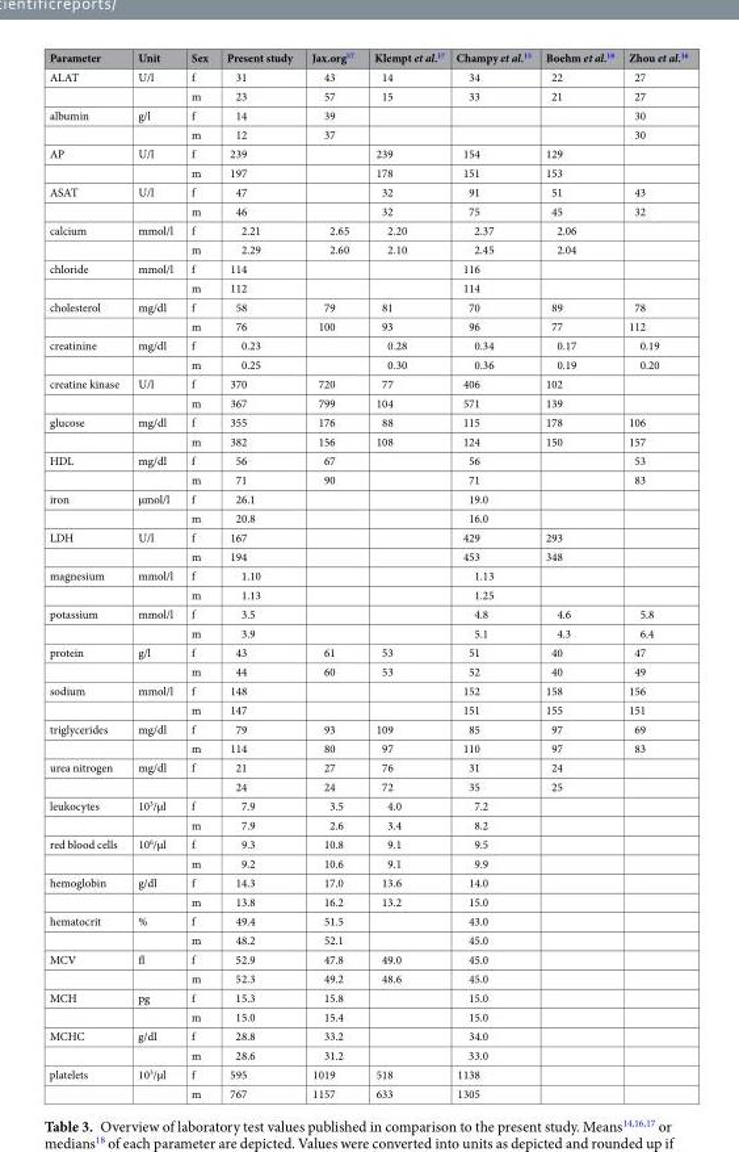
<table><thead><tr><td>Parameter</td><td>Unit</td><td>Sex</td><td>Present study</td><td>Jax.org<sup>57</sup></td><td>Klempt et al.<sup>17</sup></td><td>Champy et al.<sup>15</sup></td><td>Boehm et al.<sup>18</sup></td><td>Zhou et al.<sup>16</sup></td></tr></thead><tbody><tr><td rowspan="2">ALAT</td><td>U/l</td><td>f</td><td>31</td><td>43</td><td>14</td><td>34</td><td>22</td><td>27</td></tr><tr><td></td><td>m</td><td>23</td><td>57</td><td>15</td><td>33</td><td>21</td><td>27</td></tr><tr><td rowspan="2">albumin</td><td>g/l</td><td>f</td><td>14</td><td>39</td><td></td><td></td><td></td><td>30</td></tr><tr><td></td><td>m</td><td>12</td><td>37</td><td></td><td></td><td></td><td>30</td></tr><tr><td rowspan="2">AP</td><td>U/l</td><td>f</td><td>239</td><td></td><td>239</td><td>154</td><td>129</td><td></td></tr><tr><td></td><td>m</td><td>197</td><td></td><td>178</td><td>151</td><td>153</td><td></td></tr><tr><td rowspan="2">ASAT</td><td>U/l</td><td>f</td><td>47</td><td></td><td>32</td><td>91</td><td>51</td><td>43</td></tr><tr><td></td><td>m</td><td>46</td><td></td><td>32</td><td>75</td><td>45</td><td>32</td></tr><tr><td rowspan="2">calcium</td><td>mmol/l</td><td>f</td><td>2.21</td><td>2.65</td><td>2.20</td><td>2.37</td><td>2.06</td><td></td></tr><tr><td></td><td>m</td><td>2.29</td><td>2.60</td><td>2.10</td><td>2.45</td><td>2.04</td><td></td></tr><tr><td rowspan="2">chloride</td><td>mmol/l</td><td>f</td><td>114</td><td></td><td></td><td>116</td><td></td><td></td></tr><tr><td></td><td>m</td><td>112</td><td></td><td></td><td>114</td><td></td><td></td></tr><tr><td rowspan="2">cholesterol</td><td>mg/dl</td><td>f</td><td>58</td><td>79</td><td>81</td><td>70</td><td>89</td><td>78</td></tr><tr><td></td><td>m</td><td>76</td><td>100</td><td>93</td><td>96</td><td>77</td><td>112</td></tr><tr><td rowspan="2">creatinine</td><td>mg/dl</td><td>f</td><td>0.23</td><td></td><td>0.28</td><td>0.34</td><td>0.17</td><td>0.19</td></tr><tr><td></td><td>m</td><td>0.25</td><td></td><td>0.30</td><td>0.36</td><td>0.19</td><td>0.20</td></tr><tr><td rowspan="2">creatine kinase</td><td>U/l</td><td>f</td><td>370</td><td>720</td><td>77</td><td>406</td><td>102</td><td></td></tr><tr><td></td><td>m</td><td>367</td><td>799</td><td>104</td><td>571</td><td>139</td><td></td></tr><tr><td rowspan="2">glucose</td><td>mg/dl</td><td>f</td><td>355</td><td>176</td><td>88</td><td>115</td><td>178</td><td>106</td></tr><tr><td></td><td>m</td><td>382</td><td>156</td><td>108</td><td>124</td><td>150</td><td>157</td></tr><tr><td rowspan="2">HDL</td><td>mg/dl</td><td>f</td><td>56</td><td>67</td><td></td><td>56</td><td></td><td>53</td></tr><tr><td></td><td>m</td><td>71</td><td>90</td><td></td><td>71</td><td></td><td>83</td></tr><tr><td rowspan="2">iron</td><td>µmol/l</td><td>f</td><td>26.1</td><td></td><td></td><td>19.0</td><td></td><td></td></tr><tr><td></td><td>m</td><td>20.8</td><td></td><td></td><td>16.0</td><td></td><td></td></tr><tr><td rowspan="2">LDH</td><td>U/l</td><td>f</td><td>167</td><td></td><td></td><td>429</td><td>293</td><td></td></tr><tr><td></td><td>m</td><td>194</td><td></td><td></td><td>453</td><td>348</td><td></td></tr><tr><td rowspan="2">magnesium</td><td>mmol/l</td><td>f</td><td>1.10</td><td></td><td></td><td>1.13</td><td></td><td></td></tr><tr><td></td><td>m</td><td>1.13</td><td></td><td></td><td>1.25</td><td></td><td></td></tr><tr><td rowspan="2">potassium</td><td>mmol/l</td><td>f</td><td>3.5</td><td></td><td></td><td>4.8</td><td>4.6</td><td>5.8</td></tr><tr><td></td><td>m</td><td>3.9</td><td></td><td></td><td>5.1</td><td>4.3</td><td>6.4</td></tr><tr><td rowspan="2">protein</td><td>g/l</td><td>f</td><td>43</td><td>61</td><td>53</td><td>51</td><td>40</td><td>47</td></tr><tr><td></td><td>m</td><td>44</td><td>60</td><td>53</td><td>52</td><td>40</td><td>49</td></tr><tr><td rowspan="2">sodium</td><td>mmol/l</td><td>f</td><td>148</td><td></td><td></td><td>152</td><td>158</td><td>156</td></tr><tr><td></td><td>m</td><td>147</td><td></td><td></td><td>151</td><td>155</td><td>151</td></tr><tr><td rowspan="2">triglycerides</td><td>mg/dl</td><td>f</td><td>79</td><td>93</td><td>109</td><td>85</td><td>97</td><td>69</td></tr><tr><td></td><td>m</td><td>114</td><td>80</td><td>97</td><td>110</td><td>97</td><td>83</td></tr><tr><td rowspan="2">urea nitrogen</td><td>mg/dl</td><td>f</td><td>21</td><td>27</td><td>76</td><td>31</td><td>24</td><td></td></tr><tr><td></td><td></td><td>24</td><td>24</td><td>72</td><td>35</td><td>25</td><td></td></tr><tr><td rowspan="2">leukocytes</td><td>10<sup>3</sup>/µl</td><td>f</td><td>7.9</td><td>3.5</td><td>4.0</td><td>7.2</td><td></td><td></td></tr><tr><td></td><td>m</td><td>7.9</td><td>2.6</td><td>3.4</td><td>8.2</td><td></td><td></td></tr><tr><td rowspan="2">red blood cells</td><td>10<sup>6</sup>/µl</td><td>f</td><td>9.3</td><td>10.8</td><td>9.1</td><td>9.5</td><td></td><td></td></tr><tr><td></td><td>m</td><td>9.2</td><td>10.6</td><td>9.1</td><td>9.9</td><td></td><td></td></tr><tr><td rowspan="2">hemoglobin</td><td>g/dl</td><td>f</td><td>14.3</td><td>17.0</td><td>13.6</td><td>14.0</td><td></td><td></td></tr><tr><td></td><td>m</td><td>13.8</td><td>16.2</td><td>13.2</td><td>15.0</td><td></td><td></td></tr><tr><td rowspan="2">hematocrit</td><td>%</td><td>f</td><td>49.4</td><td>51.5</td><td></td><td>43.0</td><td></td><td></td></tr><tr><td></td><td>m</td><td>48.2</td><td>52.1</td><td></td><td>45.0</td><td></td><td></td></tr><tr><td rowspan="2">MCV</td><td>fl</td><td>f</td><td>52.9</td><td>47.8</td><td>49.0</td><td>45.0</td><td></td><td></td></tr><tr><td></td><td>m</td><td>52.3</td><td>49.2</td><td>48.6</td><td>45.0</td><td></td><td></td></tr><tr><td rowspan="2">MCH</td><td>pg</td><td>f</td><td>15.3</td><td>15.8</td><td></td><td>15.0</td><td></td><td></td></tr><tr><td></td><td>m</td><td>15.0</td><td>15.4</td><td></td><td>15.0</td><td></td><td></td></tr><tr><td rowspan="2">MCHC</td><td>g/dl</td><td>f</td><td>28.8</td><td>33.2</td><td></td><td>34.0</td><td></td><td></td></tr><tr><td></td><td>m</td><td>28.6</td><td>31.2</td><td></td><td>33.0</td><td></td><td></td></tr><tr><td rowspan="2">platelets</td><td>10<sup>3</sup>/µl</td><td>f</td><td>595</td><td>1019</td><td>518</td><td>1138</td><td></td><td></td></tr><tr><td></td><td>m</td><td>767</td><td>1157</td><td>633</td><td>1305</td><td></td><td></td></tr></tbody></table>